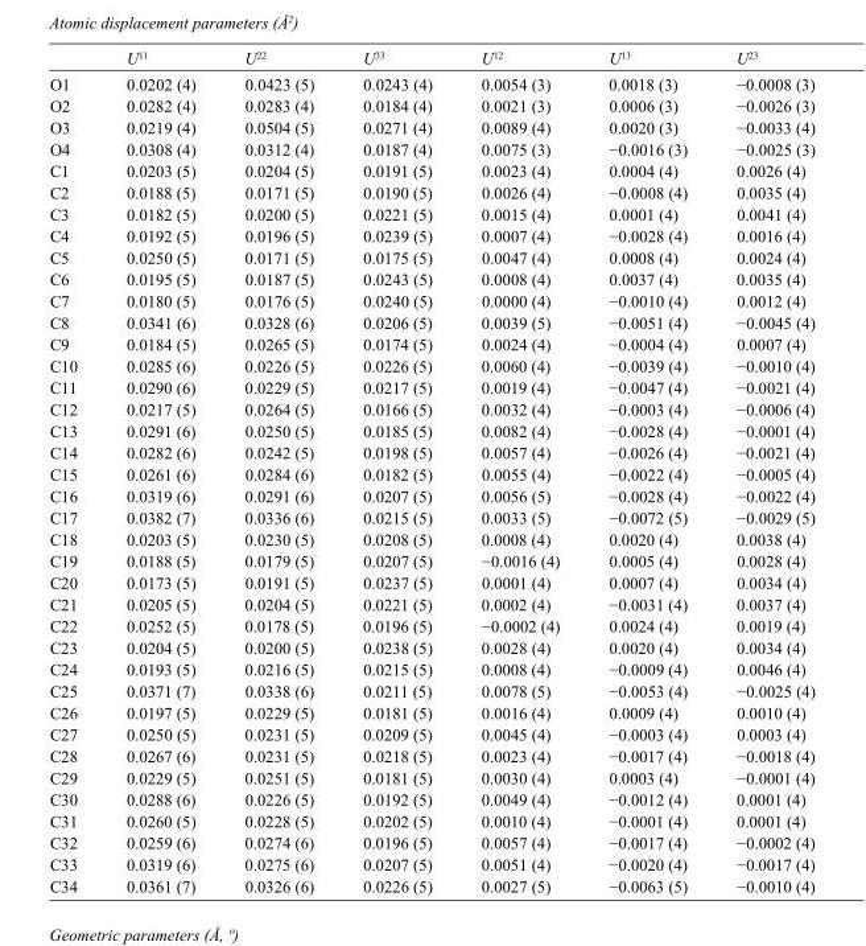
<table><thead><tr><td></td><td>U<sup>11</sup></td><td>U<sup>22</sup></td><td>U<sup>33</sup></td><td>U<sup>12</sup></td><td>U<sup>13</sup></td><td>U<sup>23</sup></td></tr></thead><tbody><tr><td>O1</td><td>0.0202 (4)</td><td>0.0423 (5)</td><td>0.0243 (4)</td><td>0.0054 (3)</td><td>0.0018 (3)</td><td>−0.0008 (3)</td></tr><tr><td>O2</td><td>0.0282 (4)</td><td>0.0283 (4)</td><td>0.0184 (4)</td><td>0.0021 (3)</td><td>0.0006 (3)</td><td>−0.0026 (3)</td></tr><tr><td>O3</td><td>0.0219 (4)</td><td>0.0504 (5)</td><td>0.0271 (4)</td><td>0.0089 (4)</td><td>0.0020 (3)</td><td>−0.0033 (4)</td></tr><tr><td>O4</td><td>0.0308 (4)</td><td>0.0312 (4)</td><td>0.0187 (4)</td><td>0.0075 (3)</td><td>−0.0016 (3)</td><td>−0.0025 (3)</td></tr><tr><td>C1</td><td>0.0203 (5)</td><td>0.0204 (5)</td><td>0.0191 (5)</td><td>0.0023 (4)</td><td>0.0004 (4)</td><td>0.0026 (4)</td></tr><tr><td>C2</td><td>0.0188 (5)</td><td>0.0171 (5)</td><td>0.0190 (5)</td><td>0.0026 (4)</td><td>−0.0008 (4)</td><td>0.0035 (4)</td></tr><tr><td>C3</td><td>0.0182 (5)</td><td>0.0200 (5)</td><td>0.0221 (5)</td><td>0.0015 (4)</td><td>0.0001 (4)</td><td>0.0041 (4)</td></tr><tr><td>C4</td><td>0.0192 (5)</td><td>0.0196 (5)</td><td>0.0239 (5)</td><td>0.0007 (4)</td><td>−0.0028 (4)</td><td>0.0016 (4)</td></tr><tr><td>C5</td><td>0.0250 (5)</td><td>0.0171 (5)</td><td>0.0175 (5)</td><td>0.0047 (4)</td><td>0.0008 (4)</td><td>0.0024 (4)</td></tr><tr><td>C6</td><td>0.0195 (5)</td><td>0.0187 (5)</td><td>0.0243 (5)</td><td>0.0008 (4)</td><td>0.0037 (4)</td><td>0.0035 (4)</td></tr><tr><td>C7</td><td>0.0180 (5)</td><td>0.0176 (5)</td><td>0.0240 (5)</td><td>0.0000 (4)</td><td>−0.0010 (4)</td><td>0.0012 (4)</td></tr><tr><td>C8</td><td>0.0341 (6)</td><td>0.0328 (6)</td><td>0.0206 (5)</td><td>0.0039 (5)</td><td>−0.0051 (4)</td><td>−0.0045 (4)</td></tr><tr><td>C9</td><td>0.0184 (5)</td><td>0.0265 (5)</td><td>0.0174 (5)</td><td>0.0024 (4)</td><td>−0.0004 (4)</td><td>0.0007 (4)</td></tr><tr><td>C10</td><td>0.0285 (6)</td><td>0.0226 (5)</td><td>0.0226 (5)</td><td>0.0060 (4)</td><td>−0.0039 (4)</td><td>−0.0010 (4)</td></tr><tr><td>C11</td><td>0.0290 (6)</td><td>0.0229 (5)</td><td>0.0217 (5)</td><td>0.0019 (4)</td><td>−0.0047 (4)</td><td>−0.0021 (4)</td></tr><tr><td>C12</td><td>0.0217 (5)</td><td>0.0264 (5)</td><td>0.0166 (5)</td><td>0.0032 (4)</td><td>−0.0003 (4)</td><td>−0.0006 (4)</td></tr><tr><td>C13</td><td>0.0291 (6)</td><td>0.0250 (5)</td><td>0.0185 (5)</td><td>0.0082 (4)</td><td>−0.0028 (4)</td><td>−0.0001 (4)</td></tr><tr><td>C14</td><td>0.0282 (6)</td><td>0.0242 (5)</td><td>0.0198 (5)</td><td>0.0057 (4)</td><td>−0.0026 (4)</td><td>−0.0021 (4)</td></tr><tr><td>C15</td><td>0.0261 (6)</td><td>0.0284 (6)</td><td>0.0182 (5)</td><td>0.0055 (4)</td><td>−0.0022 (4)</td><td>−0.0005 (4)</td></tr><tr><td>C16</td><td>0.0319 (6)</td><td>0.0291 (6)</td><td>0.0207 (5)</td><td>0.0056 (5)</td><td>−0.0028 (4)</td><td>−0.0022 (4)</td></tr><tr><td>C17</td><td>0.0382 (7)</td><td>0.0336 (6)</td><td>0.0215 (5)</td><td>0.0033 (5)</td><td>−0.0072 (5)</td><td>−0.0029 (5)</td></tr><tr><td>C18</td><td>0.0203 (5)</td><td>0.0230 (5)</td><td>0.0208 (5)</td><td>0.0008 (4)</td><td>0.0020 (4)</td><td>0.0038 (4)</td></tr><tr><td>C19</td><td>0.0188 (5)</td><td>0.0179 (5)</td><td>0.0207 (5)</td><td>−0.0016 (4)</td><td>0.0005 (4)</td><td>0.0028 (4)</td></tr><tr><td>C20</td><td>0.0173 (5)</td><td>0.0191 (5)</td><td>0.0237 (5)</td><td>0.0001 (4)</td><td>0.0007 (4)</td><td>0.0034 (4)</td></tr><tr><td>C21</td><td>0.0205 (5)</td><td>0.0204 (5)</td><td>0.0221 (5)</td><td>0.0002 (4)</td><td>−0.0031 (4)</td><td>0.0037 (4)</td></tr><tr><td>C22</td><td>0.0252 (5)</td><td>0.0178 (5)</td><td>0.0196 (5)</td><td>−0.0002 (4)</td><td>0.0024 (4)</td><td>0.0019 (4)</td></tr><tr><td>C23</td><td>0.0204 (5)</td><td>0.0200 (5)</td><td>0.0238 (5)</td><td>0.0028 (4)</td><td>0.0020 (4)</td><td>0.0034 (4)</td></tr><tr><td>C24</td><td>0.0193 (5)</td><td>0.0216 (5)</td><td>0.0215 (5)</td><td>0.0008 (4)</td><td>−0.0009 (4)</td><td>0.0046 (4)</td></tr><tr><td>C25</td><td>0.0371 (7)</td><td>0.0338 (6)</td><td>0.0211 (5)</td><td>0.0078 (5)</td><td>−0.0053 (4)</td><td>−0.0025 (4)</td></tr><tr><td>C26</td><td>0.0197 (5)</td><td>0.0229 (5)</td><td>0.0181 (5)</td><td>0.0016 (4)</td><td>0.0009 (4)</td><td>0.0010 (4)</td></tr><tr><td>C27</td><td>0.0250 (5)</td><td>0.0231 (5)</td><td>0.0209 (5)</td><td>0.0045 (4)</td><td>−0.0003 (4)</td><td>0.0003 (4)</td></tr><tr><td>C28</td><td>0.0267 (6)</td><td>0.0231 (5)</td><td>0.0218 (5)</td><td>0.0023 (4)</td><td>−0.0017 (4)</td><td>−0.0018 (4)</td></tr><tr><td>C29</td><td>0.0229 (5)</td><td>0.0251 (5)</td><td>0.0181 (5)</td><td>0.0030 (4)</td><td>0.0003 (4)</td><td>−0.0001 (4)</td></tr><tr><td>C30</td><td>0.0288 (6)</td><td>0.0226 (5)</td><td>0.0192 (5)</td><td>0.0049 (4)</td><td>−0.0012 (4)</td><td>0.0001 (4)</td></tr><tr><td>C31</td><td>0.0260 (5)</td><td>0.0228 (5)</td><td>0.0202 (5)</td><td>0.0010 (4)</td><td>−0.0001 (4)</td><td>0.0001 (4)</td></tr><tr><td>C32</td><td>0.0259 (6)</td><td>0.0274 (6)</td><td>0.0196 (5)</td><td>0.0057 (4)</td><td>−0.0017 (4)</td><td>−0.0002 (4)</td></tr><tr><td>C33</td><td>0.0319 (6)</td><td>0.0275 (6)</td><td>0.0207 (5)</td><td>0.0051 (4)</td><td>−0.0020 (4)</td><td>−0.0017 (4)</td></tr><tr><td>C34</td><td>0.0361 (7)</td><td>0.0326 (6)</td><td>0.0226 (5)</td><td>0.0027 (5)</td><td>−0.0063 (5)</td><td>−0.0010 (4)</td></tr></tbody></table>